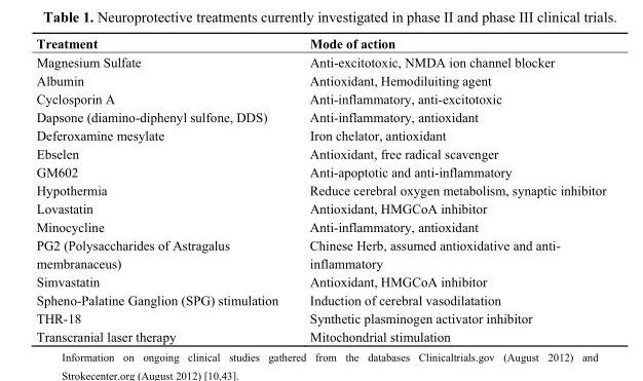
<table><thead><tr><td>Treatment</td><td>Mode of action</td></tr></thead><tbody><tr><td>Magnesium Sulfate</td><td>Anti-excitotoxic, NMDA ion channel blocker</td></tr><tr><td>Albumin</td><td>Antioxidant, Hemodiluiting agent</td></tr><tr><td>Cyclosporin A</td><td>Anti-inflammatory, anti-excitotoxic</td></tr><tr><td>Dapsone (diamino-diphenyl sulfone, DDS)</td><td>Anti-inflammatory, antioxidant</td></tr><tr><td>Deferoxamine mesylate</td><td>Iron chelator, antioxidant</td></tr><tr><td>Ebselen</td><td>Antioxidant, free radical scavenger</td></tr><tr><td>GM602</td><td>Anti-apoptotic and anti-inflammatory</td></tr><tr><td>Hypothermia</td><td>Reduce cerebral oxygen metabolism, synaptic inhibitor</td></tr><tr><td>Lovastatin</td><td>Antioxidant, HMGCoA inhibitor</td></tr><tr><td>Minocycline</td><td>Anti-inflammatory, antioxidant</td></tr><tr><td>PG2 (Polysaccharides of Astragalus membranaceus)</td><td>Chinese Herb, assumed antioxidative and anti- inflammatory</td></tr><tr><td>Simvastatin</td><td>Antioxidant, HMGCoA inhibitor</td></tr><tr><td>Spheno-Palatine Ganglion (SPG) stimulation</td><td>Induction of cerebral vasodilatation</td></tr><tr><td>THR-18</td><td>Synthetic plasminogen activator inhibitor</td></tr><tr><td>Transcranial laser therapy</td><td>Mitochondrial stimulation</td></tr></tbody></table>